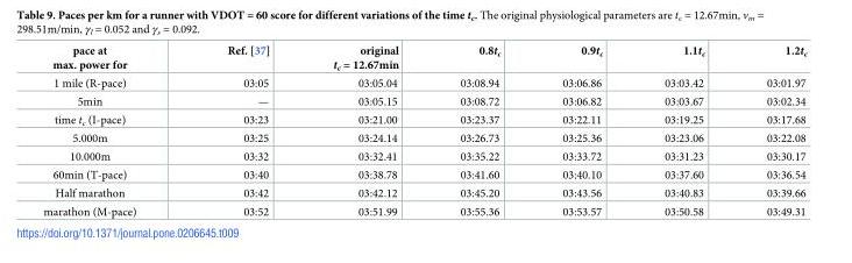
<table><thead><tr><td>pace at max. power for</td><td>Ref. [37]</td><td>original t<sub>c</sub> = 12.67min</td><td>0.8t<sub>c</sub></td><td>0.9t<sub>c</sub></td><td>1.1t<sub>c</sub></td><td>1.2t<sub>c</sub></td></tr></thead><tbody><tr><td>1 mile (R-pace)</td><td>03:05</td><td>03:05.04</td><td>03:08.94</td><td>03:06.86</td><td>03:03.42</td><td>03:01.97</td></tr><tr><td>5min</td><td>—</td><td>03:05.15</td><td>03:08.72</td><td>03:06.82</td><td>03:03.67</td><td>03:02.34</td></tr><tr><td>time t<sub>c</sub> (I-pace)</td><td>03:23</td><td>03:21.00</td><td>03:23.37</td><td>03:22.11</td><td>03:19.25</td><td>03:17.68</td></tr><tr><td>5.000m</td><td>03:25</td><td>03:24.14</td><td>03:26.73</td><td>03:25.36</td><td>03:23.06</td><td>03:22.08</td></tr><tr><td>10.000m</td><td>03:32</td><td>03:32.41</td><td>03:35.22</td><td>03:33.72</td><td>03:31.23</td><td>03:30.17</td></tr><tr><td>60min (T-pace)</td><td>03:40</td><td>03:38.78</td><td>03:41.60</td><td>03:40.10</td><td>03:37.60</td><td>03:36.54</td></tr><tr><td>Half marathon</td><td>03:42</td><td>03:42.12</td><td>03:45.20</td><td>03:43.56</td><td>03:40.83</td><td>03:39.66</td></tr><tr><td>marathon (M-pace)</td><td>03:52</td><td>03:51.99</td><td>03:55.36</td><td>03:53.57</td><td>03:50.58</td><td>03:49.31</td></tr></tbody></table>